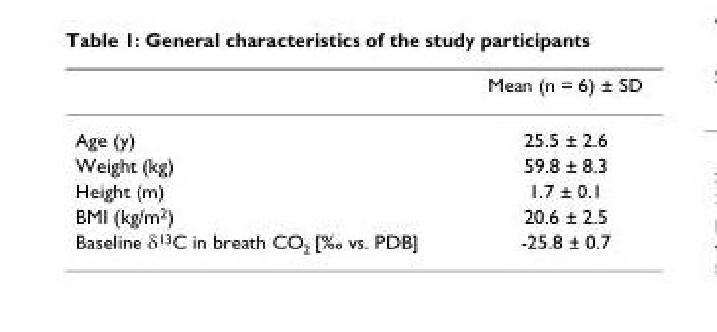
<table><thead><tr><td></td><td>Mean (n = 6) ± SD</td></tr></thead><tbody><tr><td>Age (y)</td><td>25.5 ± 2.6</td></tr><tr><td>Weight (kg)</td><td>59.8 ± 8.3</td></tr><tr><td>Height (m)</td><td>1.7 ± 0.1</td></tr><tr><td>BMI (kg/m<sup>2</sup>)</td><td>20.6 ± 2.5</td></tr><tr><td>Baseline δ<sup>13</sup>C in breath CO<sub>2</sub> [‰ vs. PDB]</td><td>-25.8 ± 0.7</td></tr></tbody></table>